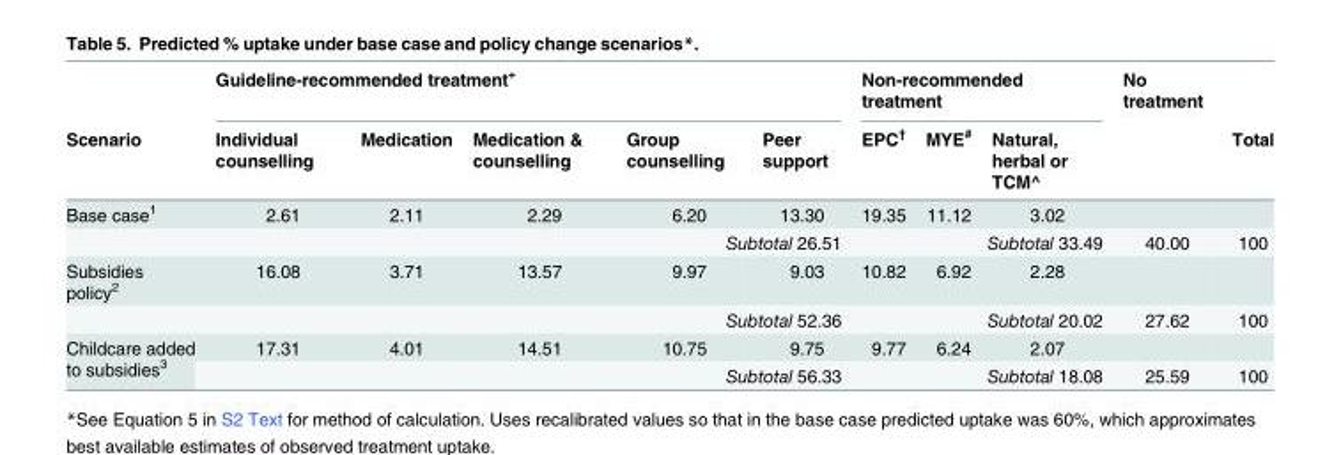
<table><thead><tr><td rowspan="2">Scenario</td><td colspan="5">Guideline-recommended treatment<sup>+</sup></td><td colspan="3">Non-recommended treatment</td><td rowspan="2">No treatment</td><td rowspan="2">Total</td></tr><tr><td>Individual counselling</td><td>Medication</td><td>Medication &amp; counselling</td><td>Group counselling</td><td>Peer support</td><td>EPC<sup>†</sup></td><td>MYE<sup>#</sup></td><td>Natural, herbal or TCM^</td></tr></thead><tbody><tr><td rowspan="2">Base case<sup>1</sup></td><td>2.61</td><td>2.11</td><td>2.29</td><td>6.20</td><td>13.30</td><td>19.35</td><td>11.12</td><td>3.02</td><td></td><td></td></tr><tr><td colspan="3"></td><td colspan="2">Subtotal 26.51</td><td></td><td colspan="2">Subtotal 33.49</td><td>40.00</td><td>100</td></tr><tr><td rowspan="2">Subsidies policy<sup>2</sup></td><td>16.08</td><td>3.71</td><td>13.57</td><td>9.97</td><td>9.03</td><td>10.82</td><td>6.92</td><td>2.28</td><td></td><td></td></tr><tr><td colspan="3"></td><td colspan="2">Subtotal 52.36</td><td></td><td colspan="2">Subtotal 20.02</td><td>27.62</td><td>100</td></tr><tr><td rowspan="2">Childcare added to subsidies<sup>3</sup></td><td>17.31</td><td>4.01</td><td>14.51</td><td>10.75</td><td>9.75</td><td>9.77</td><td>6.24</td><td>2.07</td><td></td><td></td></tr><tr><td colspan="3"></td><td colspan="2">Subtotal 56.33</td><td></td><td colspan="2">Subtotal 18.08</td><td>25.59</td><td>100</td></tr></tbody></table>